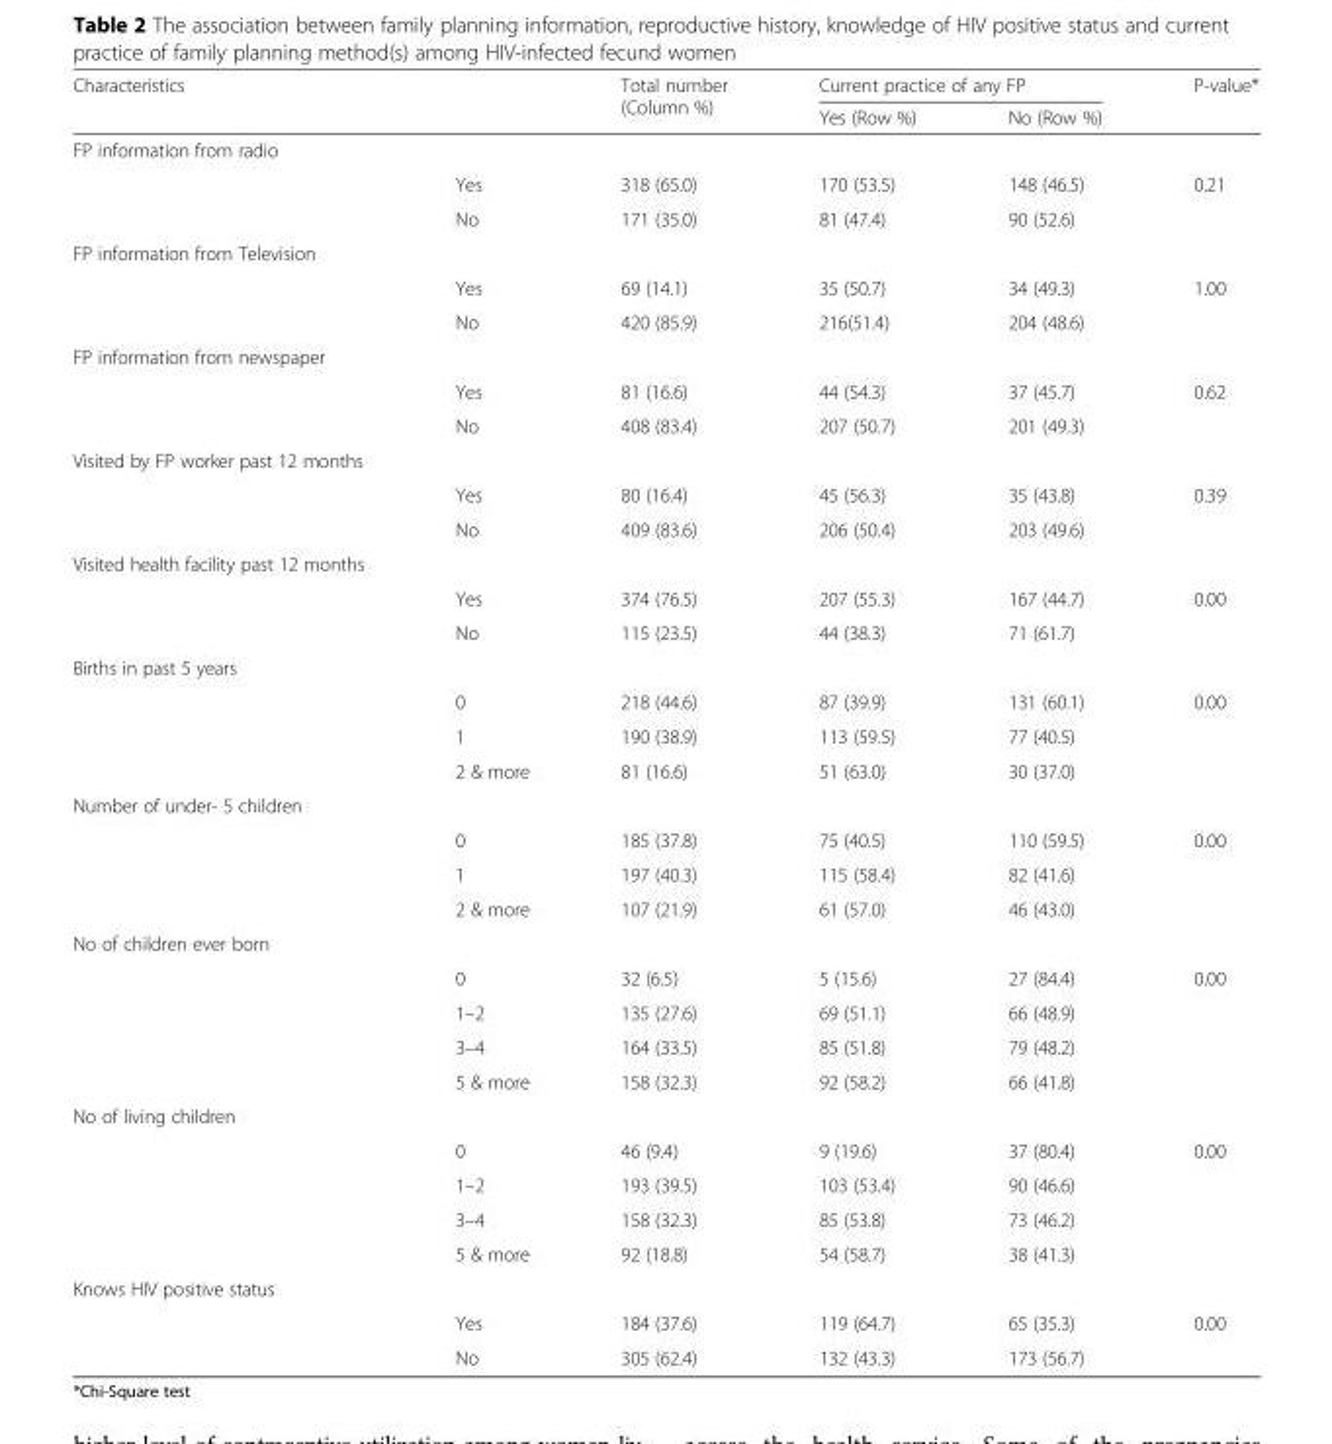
<table><thead><tr><td rowspan="2" colspan="2">Characteristics</td><td rowspan="3">Total number (Column %)</td><td colspan="2">Current practice of any FP</td><td rowspan="3">P-value*</td></tr><tr><td rowspan="2">Yes (Row %)</td><td rowspan="2">No (Row %)</td></tr><tr><td>FP information from radio</td><td></td></tr></thead><tbody><tr><td></td><td>Yes</td><td>318 (65.0)</td><td>170 (53.5)</td><td>148 (46.5)</td><td>0.21</td></tr><tr><td></td><td>No</td><td>171 (35.0)</td><td>81 (47.4)</td><td>90 (52.6)</td><td></td></tr><tr><td colspan="6">FP information from Television</td></tr><tr><td></td><td>Yes</td><td>69 (14.1)</td><td>35 (50.7)</td><td>34 (49.3)</td><td>1.00</td></tr><tr><td></td><td>No</td><td>420 (85.9)</td><td>216(51.4)</td><td>204 (48.6)</td><td></td></tr><tr><td colspan="6">FP information from newspaper</td></tr><tr><td></td><td>Yes</td><td>81 (16.6)</td><td>44 (54.3)</td><td>37 (45.7)</td><td>0.62</td></tr><tr><td></td><td>No</td><td>408 (83.4)</td><td>207 (50.7)</td><td>201 (49.3)</td><td></td></tr><tr><td colspan="6">Visited by FP worker past 12 months</td></tr><tr><td></td><td>Yes</td><td>80 (16.4)</td><td>45 (56.3)</td><td>35 (43.8)</td><td>0.39</td></tr><tr><td></td><td>No</td><td>409 (83.6)</td><td>206 (50.4)</td><td>203 (49.6)</td><td></td></tr><tr><td colspan="6">Visited health facility past 12 months</td></tr><tr><td></td><td>Yes</td><td>374 (76.5)</td><td>207 (55.3)</td><td>167 (44.7)</td><td>0.00</td></tr><tr><td></td><td>No</td><td>115 (23.5)</td><td>44 (38.3)</td><td>71 (61.7)</td><td></td></tr><tr><td colspan="6">Births in past 5 years</td></tr><tr><td></td><td>0</td><td>218 (44.6)</td><td>87 (39.9)</td><td>131 (60.1)</td><td>0.00</td></tr><tr><td></td><td>1</td><td>190 (38.9)</td><td>113 (59.5)</td><td>77 (40.5)</td><td></td></tr><tr><td></td><td>2 &amp; more</td><td>81 (16.6)</td><td>51 (63.0)</td><td>30 (37.0)</td><td></td></tr><tr><td colspan="6">Number of under- 5 children</td></tr><tr><td></td><td>0</td><td>185 (37.8)</td><td>75 (40.5)</td><td>110 (59.5)</td><td>0.00</td></tr><tr><td></td><td>1</td><td>197 (40.3)</td><td>115 (58.4)</td><td>82 (41.6)</td><td></td></tr><tr><td></td><td>2 &amp; more</td><td>107 (21.9)</td><td>61 (57.0)</td><td>46 (43.0)</td><td></td></tr><tr><td colspan="6">No of children ever born</td></tr><tr><td></td><td>0</td><td>32 (6.5)</td><td>5 (15.6)</td><td>27 (84.4)</td><td>0.00</td></tr><tr><td></td><td>1–2</td><td>135 (27.6)</td><td>69 (51.1)</td><td>66 (48.9)</td><td></td></tr><tr><td></td><td>3–4</td><td>164 (33.5)</td><td>85 (51.8)</td><td>79 (48.2)</td><td></td></tr><tr><td></td><td>5 &amp; more</td><td>158 (32.3)</td><td>92 (58.2)</td><td>66 (41.8)</td><td></td></tr><tr><td colspan="6">No of living children</td></tr><tr><td></td><td>0</td><td>46 (9.4)</td><td>9 (19.6)</td><td>37 (80.4)</td><td>0.00</td></tr><tr><td></td><td>1–2</td><td>193 (39.5)</td><td>103 (53.4)</td><td>90 (46.6)</td><td></td></tr><tr><td></td><td>3–4</td><td>158 (32.3)</td><td>85 (53.8)</td><td>73 (46.2)</td><td></td></tr><tr><td></td><td>5 &amp; more</td><td>92 (18.8)</td><td>54 (58.7)</td><td>38 (41.3)</td><td></td></tr><tr><td colspan="6">Knows HIV positive status</td></tr><tr><td></td><td>Yes</td><td>184 (37.6)</td><td>119 (64.7)</td><td>65 (35.3)</td><td>0.00</td></tr><tr><td></td><td>No</td><td>305 (62.4)</td><td>132 (43.3)</td><td>173 (56.7)</td><td></td></tr></tbody></table>